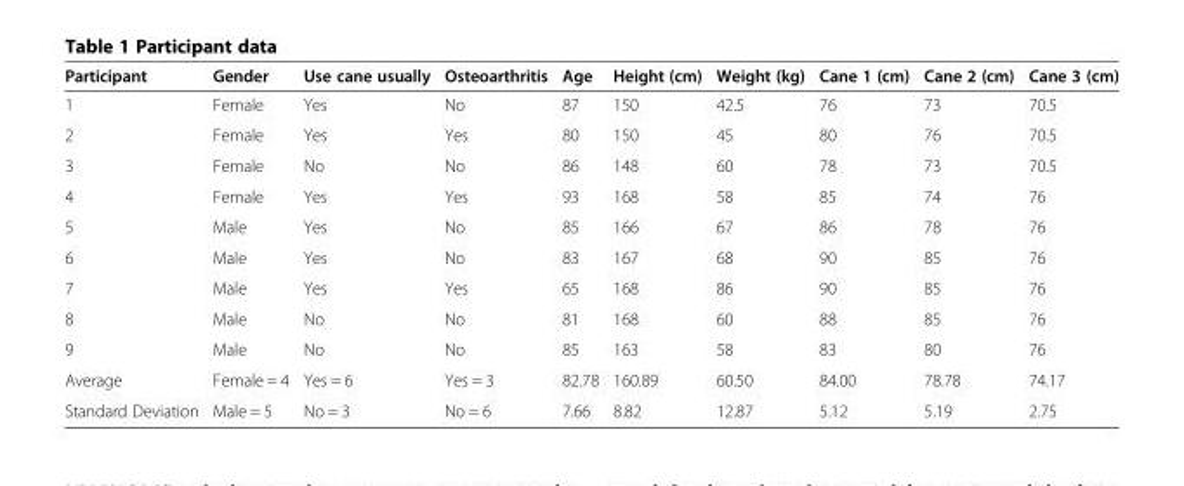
<table><thead><tr><td>Participant</td><td>Gender</td><td>Use cane usually</td><td>Osteoarthritis</td><td>Age</td><td>Height (cm)</td><td>Weight (kg)</td><td>Cane 1 (cm)</td><td>Cane 2 (cm)</td><td>Cane 3 (cm)</td></tr></thead><tbody><tr><td>1</td><td>Female</td><td>Yes</td><td>No</td><td>87</td><td>150</td><td>42.5</td><td>76</td><td>73</td><td>70.5</td></tr><tr><td>2</td><td>Female</td><td>Yes</td><td>Yes</td><td>80</td><td>150</td><td>45</td><td>80</td><td>76</td><td>70.5</td></tr><tr><td>3</td><td>Female</td><td>No</td><td>No</td><td>86</td><td>148</td><td>60</td><td>78</td><td>73</td><td>70.5</td></tr><tr><td>4</td><td>Female</td><td>Yes</td><td>Yes</td><td>93</td><td>168</td><td>58</td><td>85</td><td>74</td><td>76</td></tr><tr><td>5</td><td>Male</td><td>Yes</td><td>No</td><td>85</td><td>166</td><td>67</td><td>86</td><td>78</td><td>76</td></tr><tr><td>6</td><td>Male</td><td>Yes</td><td>No</td><td>83</td><td>167</td><td>68</td><td>90</td><td>85</td><td>76</td></tr><tr><td>7</td><td>Male</td><td>Yes</td><td>Yes</td><td>65</td><td>168</td><td>86</td><td>90</td><td>85</td><td>76</td></tr><tr><td>8</td><td>Male</td><td>No</td><td>No</td><td>81</td><td>168</td><td>60</td><td>88</td><td>85</td><td>76</td></tr><tr><td>9</td><td>Male</td><td>No</td><td>No</td><td>85</td><td>163</td><td>58</td><td>83</td><td>80</td><td>76</td></tr><tr><td>Average</td><td>Female = 4</td><td>Yes = 6</td><td>Yes = 3</td><td>82.78</td><td>160.89</td><td>60.50</td><td>84.00</td><td>78.78</td><td>74.17</td></tr><tr><td>Standard Deviation</td><td>Male = 5</td><td>No = 3</td><td>No = 6</td><td>7.66</td><td>8.82</td><td>12.87</td><td>5.12</td><td>5.19</td><td>2.75</td></tr></tbody></table>